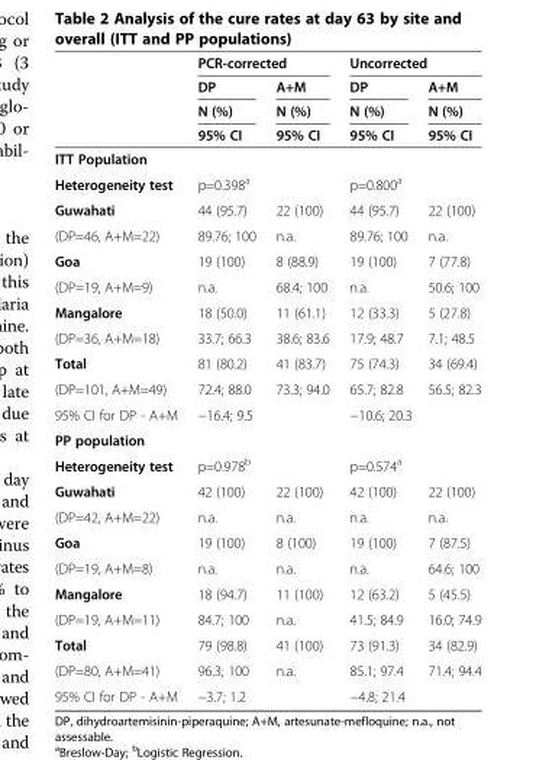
<table><thead><tr><td rowspan="4"></td><td colspan="2">PCR-corrected</td><td colspan="2">Uncorrected</td></tr><tr><td rowspan="3">DP N (%) 95% CI</td><td rowspan="3">A+M N (%) 95% CI</td><td rowspan="3">DP N (%) 95% CI</td><td rowspan="3">A+M N (%) 95% CI</td></tr><tr></tr><tr></tr></thead><tbody><tr><td colspan="5">ITT Population</td></tr><tr><td>Heterogeneity test</td><td colspan="2">p=0.398<sup>a</sup></td><td colspan="2">p=0.800<sup>a</sup></td></tr><tr><td>Guwahati</td><td>44 (95.7)</td><td>22 (100)</td><td>44 (95.7)</td><td>22 (100)</td></tr><tr><td>(DP=46, A+M=22)</td><td>89.76; 100</td><td>n.a.</td><td>89.76; 100</td><td>n.a.</td></tr><tr><td>Goa</td><td>19 (100)</td><td>8 (88.9)</td><td>19 (100)</td><td>7 (77.8)</td></tr><tr><td>(DP=19, A+M=9)</td><td>n.a.</td><td>68.4; 100</td><td>n.a.</td><td>50.6; 100</td></tr><tr><td>Mangalore</td><td>18 (50.0)</td><td>11 (61.1)</td><td>12 (33.3)</td><td>5 (27.8)</td></tr><tr><td>(DP=36, A+M=18)</td><td>33.7; 66.3</td><td>38.6; 83.6</td><td>17.9; 48.7</td><td>7.1; 48.5</td></tr><tr><td>Total</td><td>81 (80.2)</td><td>41 (83.7)</td><td>75 (74.3)</td><td>34 (69.4)</td></tr><tr><td>(DP=101, A+M=49)</td><td>72.4; 88.0</td><td>73.3; 94.0</td><td>65.7; 82.8</td><td>56.5; 82.3</td></tr><tr><td>95% CI for DP - A+M</td><td colspan="2">−16.4; 9.5</td><td colspan="2">−10.6; 20.3</td></tr><tr><td colspan="5">PP population</td></tr><tr><td>Heterogeneity test</td><td colspan="2">p=0.978<sup>b</sup></td><td colspan="2">p=0.574<sup>a</sup></td></tr><tr><td>Guwahati</td><td>42 (100)</td><td>22 (100)</td><td>42 (100)</td><td>22 (100)</td></tr><tr><td>(DP=42, A+M=22)</td><td>n.a.</td><td>n.a.</td><td>n.a.</td><td>n.a.</td></tr><tr><td>Goa</td><td>19 (100)</td><td>8 (100)</td><td>19 (100)</td><td>7 (87.5)</td></tr><tr><td>(DP=19, A+M=8)</td><td>n.a.</td><td>n.a.</td><td>n.a.</td><td>64.6; 100</td></tr><tr><td>Mangalore</td><td>18 (94.7)</td><td>11 (100)</td><td>12 (63.2)</td><td>5 (45.5)</td></tr><tr><td>(DP=19, A+M=11)</td><td>84.7; 100</td><td>n.a.</td><td>41.5; 84.9</td><td>16.0; 74.9</td></tr><tr><td>Total</td><td>79 (98.8)</td><td>41 (100)</td><td>73 (91.3)</td><td>34 (82.9)</td></tr><tr><td>(DP=80, A+M=41)</td><td>96.3; 100</td><td>n.a.</td><td>85.1; 97.4</td><td>71.4; 94.4</td></tr><tr><td>95% CI for DP - A+M</td><td colspan="2">−3.7; 1.2</td><td colspan="2">−4.8; 21.4</td></tr></tbody></table>